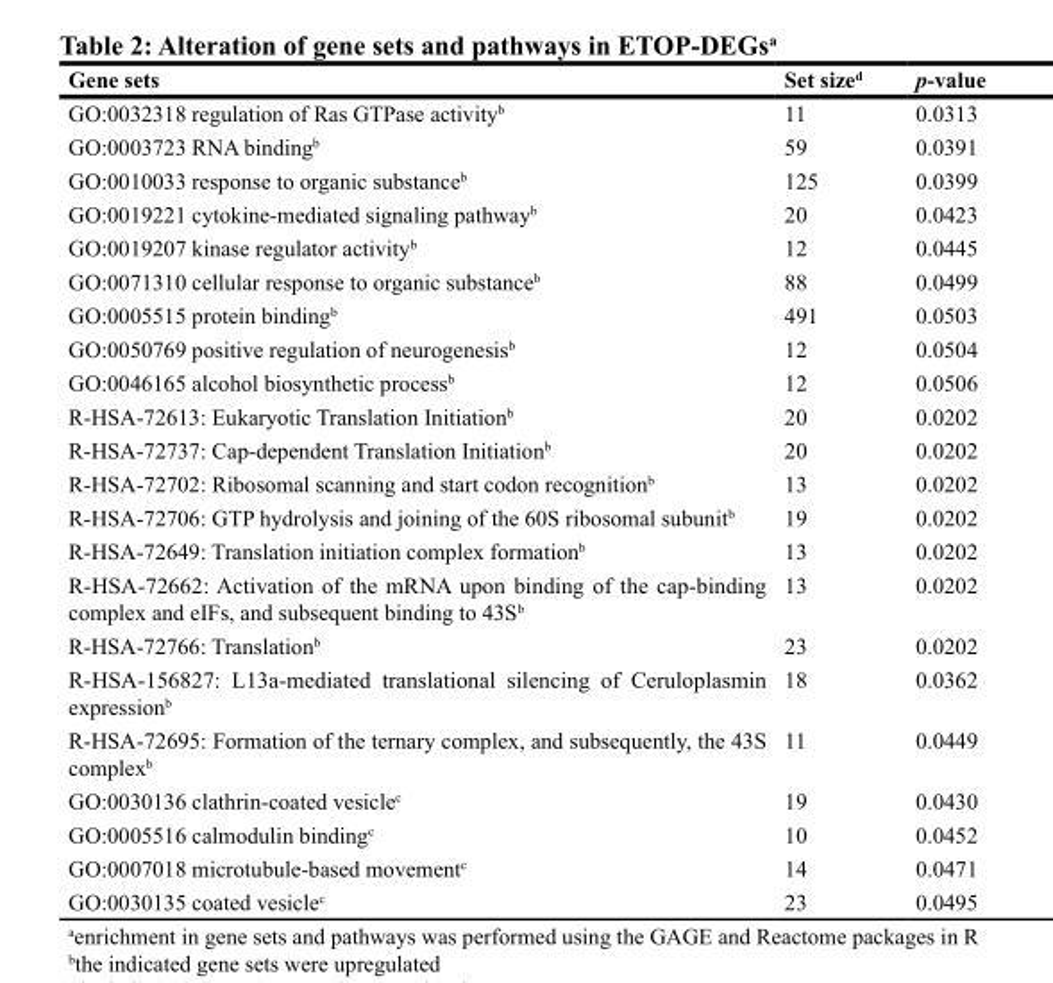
<table><thead><tr><td>Gene sets</td><td>Set size<sup>d</sup></td><td>p-value</td></tr></thead><tbody><tr><td>GO:0032318 regulation of Ras GTPase activity<sup>b</sup></td><td>11</td><td>0.0313</td></tr><tr><td>GO:0003723 RNA binding<sup>b</sup></td><td>59</td><td>0.0391</td></tr><tr><td>GO:0010033 response to organic substance<sup>b</sup></td><td>125</td><td>0.0399</td></tr><tr><td>GO:0019221 cytokine-mediated signaling pathway<sup>b</sup></td><td>20</td><td>0.0423</td></tr><tr><td>GO:0019207 kinase regulator activity<sup>b</sup></td><td>12</td><td>0.0445</td></tr><tr><td>GO:0071310 cellular response to organic substance<sup>b</sup></td><td>88</td><td>0.0499</td></tr><tr><td>GO:0005515 protein binding<sup>b</sup></td><td>491</td><td>0.0503</td></tr><tr><td>GO:0050769 positive regulation of neurogenesis<sup>b</sup></td><td>12</td><td>0.0504</td></tr><tr><td>GO:0046165 alcohol biosynthetic process<sup>b</sup></td><td>12</td><td>0.0506</td></tr><tr><td>R-HSA-72613: Eukaryotic Translation Initiation<sup>b</sup></td><td>20</td><td>0.0202</td></tr><tr><td>R-HSA-72737: Cap-dependent Translation Initiation<sup>b</sup></td><td>20</td><td>0.0202</td></tr><tr><td>R-HSA-72702: Ribosomal scanning and start codon recognition<sup>b</sup></td><td>13</td><td>0.0202</td></tr><tr><td>R-HSA-72706: GTP hydrolysis and joining of the 60S ribosomal subunit<sup>b</sup></td><td>19</td><td>0.0202</td></tr><tr><td>R-HSA-72649: Translation initiation complex formation<sup>b</sup></td><td>13</td><td>0.0202</td></tr><tr><td>R-HSA-72662: Activation of the mRNA upon binding of the cap-binding complex and eIFs, and subsequent binding to 43S<sup>b</sup></td><td>13</td><td>0.0202</td></tr><tr><td>R-HSA-72766: Translation<sup>b</sup></td><td>23</td><td>0.0202</td></tr><tr><td>R-HSA-156827: L13a-mediated translational silencing of Ceruloplasmin expression<sup>b</sup></td><td>18</td><td>0.0362</td></tr><tr><td>R-HSA-72695: Formation of the ternary complex, and subsequently, the 43S complex<sup>b</sup></td><td>11</td><td>0.0449</td></tr><tr><td>GO:0030136 clathrin-coated vesicle<sup>c</sup></td><td>19</td><td>0.0430</td></tr><tr><td>GO:0005516 calmodulin binding<sup>c</sup></td><td>10</td><td>0.0452</td></tr><tr><td>GO:0007018 microtubule-based movement<sup>c</sup></td><td>14</td><td>0.0471</td></tr><tr><td>GO:0030135 coated vesicle<sup>c</sup></td><td>23</td><td>0.0495</td></tr></tbody></table>